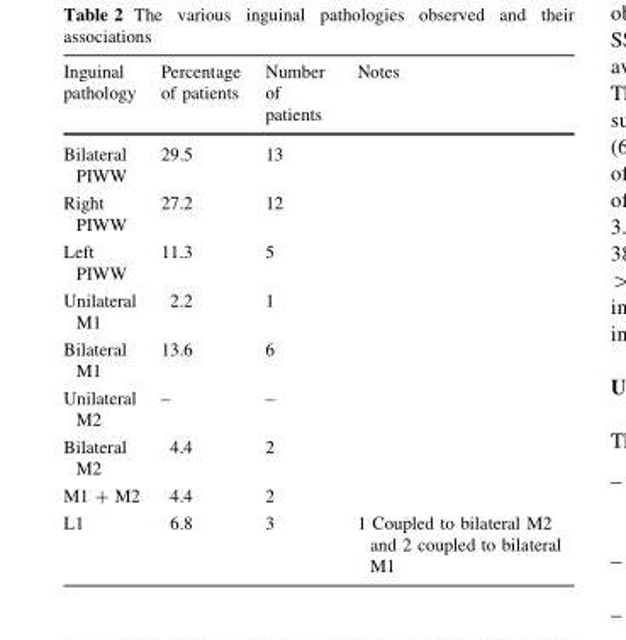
<table><thead><tr><td>Inguinal pathology</td><td>Percentage of patients</td><td>Number of patients</td><td>Notes</td></tr></thead><tbody><tr><td>Bilateral PIWW</td><td>29.5</td><td>13</td><td></td></tr><tr><td>Right PIWW</td><td>27.2</td><td>12</td><td></td></tr><tr><td>Left PIWW</td><td>11.3</td><td>5</td><td></td></tr><tr><td>Unilateral M1</td><td>2.2</td><td>1</td><td></td></tr><tr><td>Bilateral M1</td><td>13.6</td><td>6</td><td></td></tr><tr><td>Unilateral M2</td><td>–</td><td>–</td><td></td></tr><tr><td>Bilateral M2</td><td>4.4</td><td>2</td><td></td></tr><tr><td>M1 + M2</td><td>4.4</td><td>2</td><td></td></tr><tr><td>L1</td><td>6.8</td><td>3</td><td>1 Coupled to bilateral M2 and 2 coupled to bilateral M1</td></tr></tbody></table>